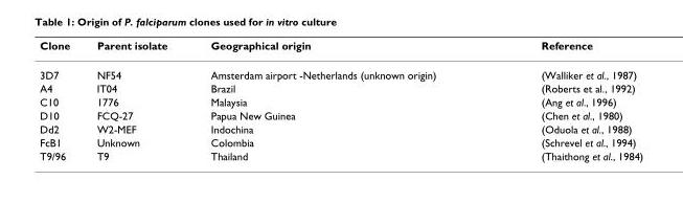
<table><thead><tr><td>Clone</td><td>Parent isolate</td><td>Geographical origin</td><td>Reference</td></tr></thead><tbody><tr><td>3D7</td><td>NF54</td><td>Amsterdam airport -Netherlands (unknown origin)</td><td>(Walliker et al., 1987)</td></tr><tr><td>A4</td><td>IT04</td><td>Brazil</td><td>(Roberts et al., 1992)</td></tr><tr><td>C10</td><td>1776</td><td>Malaysia</td><td>(Ang et al., 1996)</td></tr><tr><td>D10</td><td>FCQ-27</td><td>Papua New Guinea</td><td>(Chen et al., 1980)</td></tr><tr><td>Dd2</td><td>W2-MEF</td><td>Indochina</td><td>(Oduola et al., 1988)</td></tr><tr><td>FcB1</td><td>Unknown</td><td>Colombia</td><td>(Schrevel et al., 1994)</td></tr><tr><td>T9/96</td><td>T9</td><td>Thailand</td><td>(Thaithong et al., 1984)</td></tr></tbody></table>